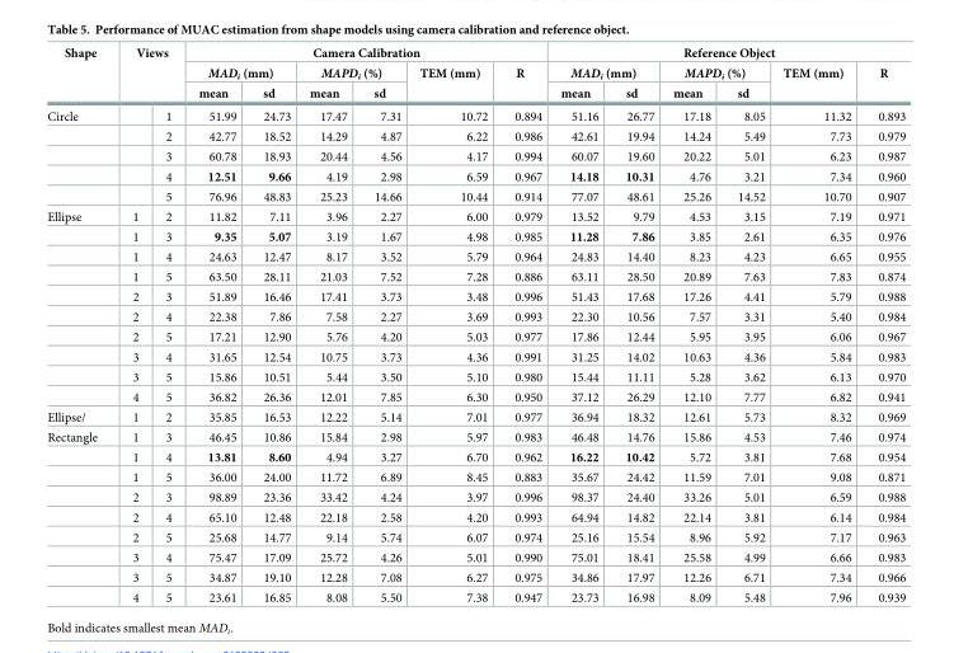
<table><thead><tr><td rowspan="4">Shape Circle</td><td rowspan="3" colspan="2">Views</td><td colspan="6">Camera Calibration</td><td colspan="6">Reference Object</td></tr><tr><td colspan="2">MAD<sub>i</sub> (mm)</td><td colspan="2">MAPD<sub>i</sub> (%)</td><td rowspan="3">TEM (mm) 10.72</td><td rowspan="3">R 0.894</td><td colspan="2">MAD<sub>i</sub> (mm)</td><td colspan="2">MAPD<sub>i</sub> (%)</td><td rowspan="3">TEM (mm) 11.32</td><td rowspan="3">R 0.893</td></tr><tr><td rowspan="2">mean 51.99</td><td rowspan="2">sd 24.73</td><td rowspan="2">mean 17.47</td><td rowspan="2">sd 7.31</td><td rowspan="2">mean 51.16</td><td rowspan="2">sd 26.77</td><td rowspan="2">mean 17.18</td><td rowspan="2">sd 8.05</td></tr><tr><td></td><td>1</td></tr></thead><tbody><tr><td></td><td></td><td>2</td><td>42.77</td><td>18.52</td><td>14.29</td><td>4.87</td><td>6.22</td><td>0.986</td><td>42.61</td><td>19.94</td><td>14.24</td><td>5.49</td><td>7.73</td><td>0.979</td></tr><tr><td></td><td></td><td>3</td><td>60.78</td><td>18.93</td><td>20.44</td><td>4.56</td><td>4.17</td><td>0.994</td><td>60.07</td><td>19.60</td><td>20.22</td><td>5.01</td><td>6.23</td><td>0.987</td></tr><tr><td></td><td></td><td>4</td><td>12.51</td><td>9.66</td><td>4.19</td><td>2.98</td><td>6.59</td><td>0.967</td><td>14.18</td><td>10.31</td><td>4.76</td><td>3.21</td><td>7.34</td><td>0.960</td></tr><tr><td></td><td></td><td>5</td><td>76.96</td><td>48.83</td><td>25.23</td><td>14.66</td><td>10.44</td><td>0.914</td><td>77.07</td><td>48.61</td><td>25.26</td><td>14.52</td><td>10.70</td><td>0.907</td></tr><tr><td rowspan="10">Ellipse</td><td>1</td><td>2</td><td>11.82</td><td>7.11</td><td>3.96</td><td>2.27</td><td>6.00</td><td>0.979</td><td>13.52</td><td>9.79</td><td>4.53</td><td>3.15</td><td>7.19</td><td>0.971</td></tr><tr><td>1</td><td>3</td><td>9.35</td><td>5.07</td><td>3.19</td><td>1.67</td><td>4.98</td><td>0.985</td><td>11.28</td><td>7.86</td><td>3.85</td><td>2.61</td><td>6.35</td><td>0.976</td></tr><tr><td>1</td><td>4</td><td>24.63</td><td>12.47</td><td>8.17</td><td>3.52</td><td>5.79</td><td>0.964</td><td>24.83</td><td>14.40</td><td>8.23</td><td>4.23</td><td>6.65</td><td>0.955</td></tr><tr><td>1</td><td>5</td><td>63.50</td><td>28.11</td><td>21.03</td><td>7.52</td><td>7.28</td><td>0.886</td><td>63.11</td><td>28.50</td><td>20.89</td><td>7.63</td><td>7.83</td><td>0.874</td></tr><tr><td>2</td><td>3</td><td>51.89</td><td>16.46</td><td>17.41</td><td>3.73</td><td>3.48</td><td>0.996</td><td>51.43</td><td>17.68</td><td>17.26</td><td>4.41</td><td>5.79</td><td>0.988</td></tr><tr><td>2</td><td>4</td><td>22.38</td><td>7.86</td><td>7.58</td><td>2.27</td><td>3.69</td><td>0.993</td><td>22.30</td><td>10.56</td><td>7.57</td><td>3.31</td><td>5.40</td><td>0.984</td></tr><tr><td>2</td><td>5</td><td>17.21</td><td>12.90</td><td>5.76</td><td>4.20</td><td>5.03</td><td>0.977</td><td>17.86</td><td>12.44</td><td>5.95</td><td>3.95</td><td>6.06</td><td>0.967</td></tr><tr><td>3</td><td>4</td><td>31.65</td><td>12.54</td><td>10.75</td><td>3.73</td><td>4.36</td><td>0.991</td><td>31.25</td><td>14.02</td><td>10.63</td><td>4.36</td><td>5.84</td><td>0.983</td></tr><tr><td>3</td><td>5</td><td>15.86</td><td>10.51</td><td>5.44</td><td>3.50</td><td>5.10</td><td>0.980</td><td>15.44</td><td>11.11</td><td>5.28</td><td>3.62</td><td>6.13</td><td>0.970</td></tr><tr><td>4</td><td>5</td><td>36.82</td><td>26.36</td><td>12.01</td><td>7.85</td><td>6.30</td><td>0.950</td><td>37.12</td><td>26.29</td><td>12.10</td><td>7.77</td><td>6.82</td><td>0.941</td></tr><tr><td>Ellipse/</td><td>1</td><td>2</td><td>35.85</td><td>16.53</td><td>12.22</td><td>5.14</td><td>7.01</td><td>0.977</td><td>36.94</td><td>18.32</td><td>12.61</td><td>5.73</td><td>8.32</td><td>0.969</td></tr><tr><td rowspan="9">Rectangle</td><td>1</td><td>3</td><td>46.45</td><td>10.86</td><td>15.84</td><td>2.98</td><td>5.97</td><td>0.983</td><td>46.48</td><td>14.76</td><td>15.86</td><td>4.53</td><td>7.46</td><td>0.974</td></tr><tr><td>1</td><td>4</td><td>13.81</td><td>8.60</td><td>4.94</td><td>3.27</td><td>6.70</td><td>0.962</td><td>16.22</td><td>10.42</td><td>5.72</td><td>3.81</td><td>7.68</td><td>0.954</td></tr><tr><td>1</td><td>5</td><td>36.00</td><td>24.00</td><td>11.72</td><td>6.89</td><td>8.45</td><td>0.883</td><td>35.67</td><td>24.42</td><td>11.59</td><td>7.01</td><td>9.08</td><td>0.871</td></tr><tr><td>2</td><td>3</td><td>98.89</td><td>23.36</td><td>33.42</td><td>4.24</td><td>3.97</td><td>0.996</td><td>98.37</td><td>24.40</td><td>33.26</td><td>5.01</td><td>6.59</td><td>0.988</td></tr><tr><td>2</td><td>4</td><td>65.10</td><td>12.48</td><td>22.18</td><td>2.58</td><td>4.20</td><td>0.993</td><td>64.94</td><td>14.82</td><td>22.14</td><td>3.81</td><td>6.14</td><td>0.984</td></tr><tr><td>2</td><td>5</td><td>25.68</td><td>14.77</td><td>9.14</td><td>5.74</td><td>6.07</td><td>0.974</td><td>25.16</td><td>15.54</td><td>8.96</td><td>5.92</td><td>7.17</td><td>0.963</td></tr><tr><td>3</td><td>4</td><td>75.47</td><td>17.09</td><td>25.72</td><td>4.26</td><td>5.01</td><td>0.990</td><td>75.01</td><td>18.41</td><td>25.58</td><td>4.99</td><td>6.66</td><td>0.983</td></tr><tr><td>3</td><td>5</td><td>34.87</td><td>19.10</td><td>12.28</td><td>7.08</td><td>6.27</td><td>0.975</td><td>34.86</td><td>17.97</td><td>12.26</td><td>6.71</td><td>7.34</td><td>0.966</td></tr><tr><td>4</td><td>5</td><td>23.61</td><td>16.85</td><td>8.08</td><td>5.50</td><td>7.38</td><td>0.947</td><td>23.73</td><td>16.98</td><td>8.09</td><td>5.48</td><td>7.96</td><td>0.939</td></tr></tbody></table>